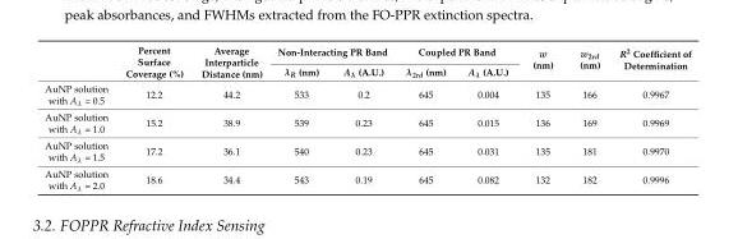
<table><thead><tr><td rowspan="2"></td><td rowspan="2">Percent Surface Coverage (%)</td><td rowspan="2">Average Interparticle Distance (nm)</td><td colspan="2">Non-Interacting PR Band</td><td colspan="2">Coupled PR Band</td><td rowspan="2">w (nm)</td><td rowspan="2">w<sub>2rd</sub> (nm)</td><td rowspan="2">R<sup>2</sup> Coefficient of Determination</td></tr><tr><td>λ<sub>R</sub> (nm)</td><td>A<sub>λ</sub> (A.U.)</td><td>λ<sub>2rd</sub> (nm)</td><td>A<sub>λ</sub> (A.U.)</td></tr></thead><tbody><tr><td>AuNP solution with A<sub>λ</sub> = 0.5</td><td>12.2</td><td>44.2</td><td>533</td><td>0.2</td><td>645</td><td>0.004</td><td>135</td><td>166</td><td>0.9967</td></tr><tr><td>AuNP solution with A<sub>λ</sub> = 1.0</td><td>15.2</td><td>38.9</td><td>539</td><td>0.23</td><td>645</td><td>0.015</td><td>136</td><td>169</td><td>0.9969</td></tr><tr><td>AuNP solution with A<sub>λ</sub> = 1.5</td><td>17.2</td><td>36.1</td><td>540</td><td>0.23</td><td>645</td><td>0.031</td><td>135</td><td>181</td><td>0.9970</td></tr><tr><td>AuNP solution with A<sub>λ</sub> = 2.0</td><td>18.6</td><td>34.4</td><td>543</td><td>0.19</td><td>645</td><td>0.082</td><td>132</td><td>182</td><td>0.9996</td></tr></tbody></table>